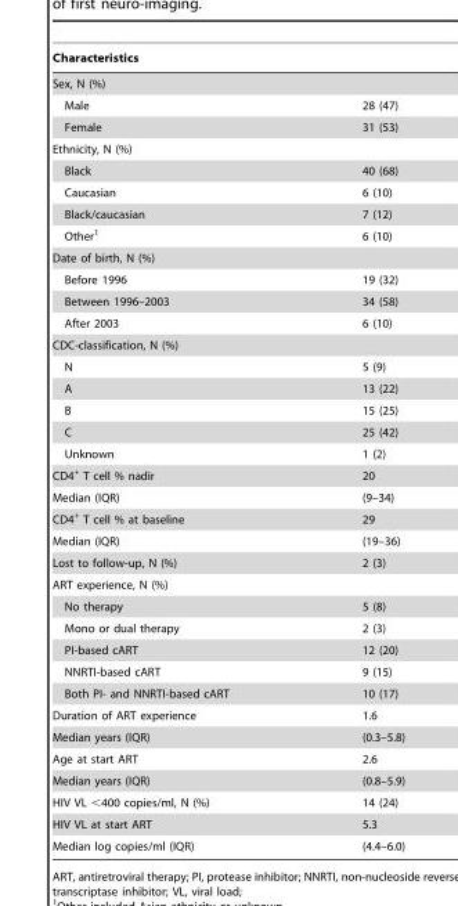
<table><thead><tr><td>Characteristics</td><td></td></tr></thead><tbody><tr><td colspan="2">Sex, N (%)</td></tr><tr><td>Male</td><td>28 (47)</td></tr><tr><td>Female</td><td>31 (53)</td></tr><tr><td colspan="2">Ethnicity, N (%)</td></tr><tr><td>Black</td><td>40 (68)</td></tr><tr><td>Caucasian</td><td>6 (10)</td></tr><tr><td>Black/caucasian</td><td>7 (12)</td></tr><tr><td>Other<sup>1</sup></td><td>6 (10)</td></tr><tr><td colspan="2">Date of birth, N (%)</td></tr><tr><td>Before 1996</td><td>19 (32)</td></tr><tr><td>Between 1996–2003</td><td>34 (58)</td></tr><tr><td>After 2003</td><td>6 (10)</td></tr><tr><td colspan="2">CDC-classification, N (%)</td></tr><tr><td>N</td><td>5 (9)</td></tr><tr><td>A</td><td>13 (22)</td></tr><tr><td>B</td><td>15 (25)</td></tr><tr><td>C</td><td>25 (42)</td></tr><tr><td>Unknown</td><td>1 (2)</td></tr><tr><td>CD4<sup>+</sup> T cell % nadir</td><td>20</td></tr><tr><td>Median (IQR)</td><td>(9–34)</td></tr><tr><td>CD4<sup>+</sup> T cell % at baseline</td><td>29</td></tr><tr><td>Median (IQR)</td><td>(19–36)</td></tr><tr><td>Lost to follow-up, N (%)</td><td>2 (3)</td></tr><tr><td colspan="2">ART experience, N (%)</td></tr><tr><td>No therapy</td><td>5 (8)</td></tr><tr><td>Mono or dual therapy</td><td>2 (3)</td></tr><tr><td>PI-based cART</td><td>12 (20)</td></tr><tr><td>NNRTI-based cART</td><td>9 (15)</td></tr><tr><td>Both PI- and NNRTI-based cART</td><td>10 (17)</td></tr><tr><td>Duration of ART experience</td><td>1.6</td></tr><tr><td>Median years (IQR)</td><td>(0.3–5.8)</td></tr><tr><td>Age at start ART</td><td>2.6</td></tr><tr><td>Median years (IQR)</td><td>(0.8–5.9)</td></tr><tr><td>HIV VL &lt;400 copies/ml, N (%)</td><td>14 (24)</td></tr><tr><td>HIV VL at start ART</td><td>5.3</td></tr><tr><td>Median log copies/ml (IQR)</td><td>(4.4–6.0)</td></tr></tbody></table>